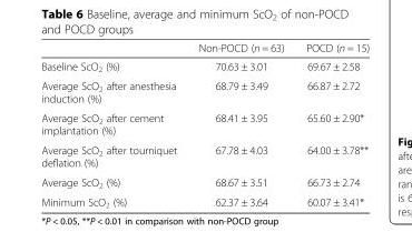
<table><thead><tr><td></td><td>Non-POCD (n = 63)</td><td>POCD (n = 15)</td></tr></thead><tbody><tr><td>Baseline ScO<sub>2</sub> (%)</td><td>70.63 ± 3.01</td><td>69.67 ± 2.58</td></tr><tr><td>Average ScO<sub>2</sub> after anesthesia induction (%)</td><td>68.79 ± 3.49</td><td>66.87 ± 2.72</td></tr><tr><td>Average ScO<sub>2</sub> after cement implantation (%)</td><td>68.41 ± 3.95</td><td>65.60 ± 2.90*</td></tr><tr><td>Average ScO<sub>2</sub> after tourniquet deflation (%)</td><td>67.78 ± 4.03</td><td>64.00 ± 3.78**</td></tr><tr><td>Average ScO<sub>2</sub> (%)</td><td>68.67 ± 3.51</td><td>66.73 ± 2.74</td></tr><tr><td>Minimum ScO<sub>2</sub> (%)</td><td>62.37 ± 3.64</td><td>60.07 ± 3.41*</td></tr></tbody></table>